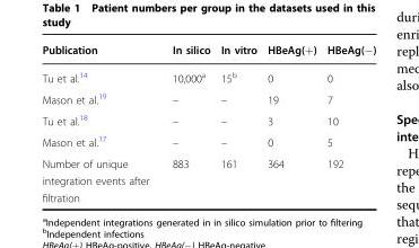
<table><thead><tr><td>Publication</td><td>In silico</td><td>In vitro</td><td>HBeAg(+)</td><td>HBeAg(−)</td></tr></thead><tbody><tr><td>Tu et al.<sup>14</sup></td><td>10,000<sup>a</sup></td><td>15<sup>b</sup></td><td>0</td><td>0</td></tr><tr><td>Mason et al.<sup>19</sup></td><td>–</td><td>–</td><td>19</td><td>7</td></tr><tr><td>Tu et al.<sup>18</sup></td><td>–</td><td>–</td><td>3</td><td>10</td></tr><tr><td>Mason et al.<sup>17</sup></td><td>–</td><td>–</td><td>0</td><td>5</td></tr><tr><td>Number of unique integration events after filtration</td><td>883</td><td>161</td><td>364</td><td>192</td></tr></tbody></table>